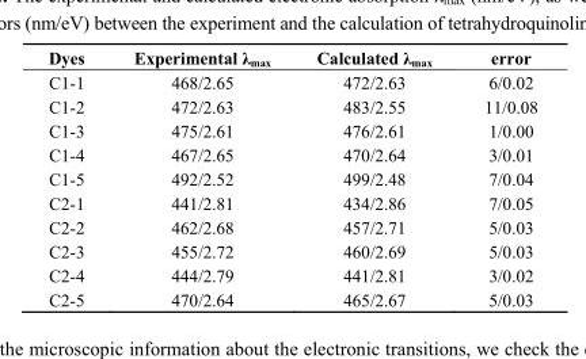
<table><thead><tr><td>Dyes</td><td>Experimental λ<sub>max</sub></td><td>Calculated λ<sub>max</sub></td><td>error</td></tr></thead><tbody><tr><td>C1-1</td><td>468/2.65</td><td>472/2.63</td><td>6/0.02</td></tr><tr><td>C1-2</td><td>472/2.63</td><td>483/2.55</td><td>11/0.08</td></tr><tr><td>C1-3</td><td>475/2.61</td><td>476/2.61</td><td>1/0.00</td></tr><tr><td>C1-4</td><td>467/2.65</td><td>470/2.64</td><td>3/0.01</td></tr><tr><td>C1-5</td><td>492/2.52</td><td>499/2.48</td><td>7/0.04</td></tr><tr><td>C2-1</td><td>441/2.81</td><td>434/2.86</td><td>7/0.05</td></tr><tr><td>C2-2</td><td>462/2.68</td><td>457/2.71</td><td>5/0.03</td></tr><tr><td>C2-3</td><td>455/2.72</td><td>460/2.69</td><td>5/0.03</td></tr><tr><td>C2-4</td><td>444/2.79</td><td>441/2.81</td><td>3/0.02</td></tr><tr><td>C2-5</td><td>470/2.64</td><td>465/2.67</td><td>5/0.03</td></tr></tbody></table>